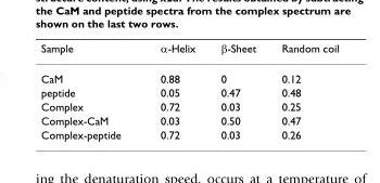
<table><thead><tr><td>Sample</td><td>α-Helix</td><td>β-Sheet</td><td>Random coil</td></tr></thead><tbody><tr><td>CaM</td><td>0.88</td><td>0</td><td>0.12</td></tr><tr><td>peptide</td><td>0.05</td><td>0.47</td><td>0.48</td></tr><tr><td>Complex</td><td>0.72</td><td>0.03</td><td>0.25</td></tr><tr><td>Complex-CaM</td><td>0.03</td><td>0.50</td><td>0.47</td></tr><tr><td>Complex-peptide</td><td>0.72</td><td>0.03</td><td>0.26</td></tr></tbody></table>